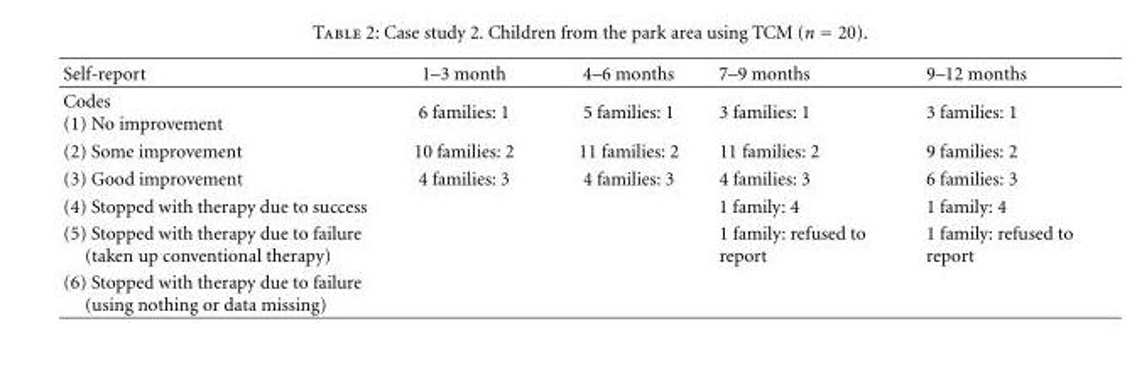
<table><thead><tr><td>Self-report</td><td>1–3 month</td><td>4–6 months</td><td>7–9 months</td><td>9–12 months</td></tr></thead><tbody><tr><td>Codes (1) No improvement</td><td>6 families: 1</td><td>5 families: 1</td><td>3 families: 1</td><td>3 families: 1</td></tr><tr><td>(2) Some improvement</td><td>10 families: 2</td><td>11 families: 2</td><td>11 families: 2</td><td>9 families: 2</td></tr><tr><td>(3) Good improvement</td><td>4 families: 3</td><td>4 families: 3</td><td>4 families: 3</td><td>6 families: 3</td></tr><tr><td>(4) Stopped with therapy due to success</td><td></td><td></td><td>1 family: 4</td><td>1 family: 4</td></tr><tr><td>(5) Stopped with therapy due to failure (taken up conventional therapy)</td><td></td><td></td><td>1 family: refused to report</td><td>1 family: refused to report</td></tr><tr><td>(6) Stopped with therapy due to failure (using nothing or data missing)</td><td></td><td></td><td></td><td></td></tr></tbody></table>